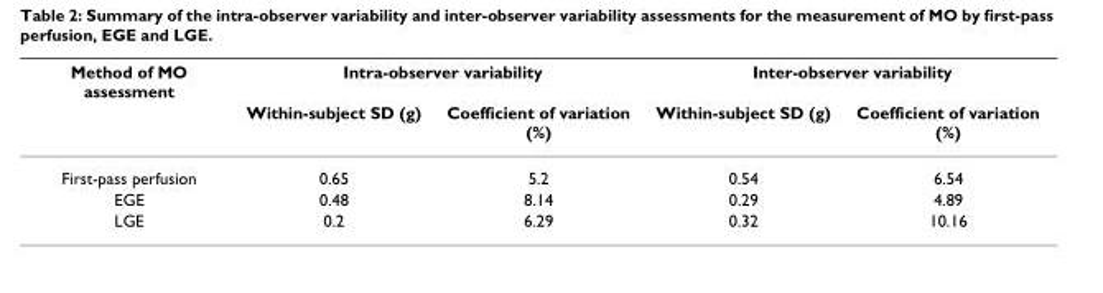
<table><thead><tr><td rowspan="2">Method of MO assessment</td><td colspan="2">Intra-observer variability</td><td colspan="2">Inter-observer variability</td></tr><tr><td>Within-subject SD (g)</td><td>Coefficient of variation (%)</td><td>Within-subject SD (g)</td><td>Coefficient of variation (%)</td></tr></thead><tbody><tr><td>First-pass perfusion</td><td>0.65</td><td>5.2</td><td>0.54</td><td>6.54</td></tr><tr><td>EGE</td><td>0.48</td><td>8.14</td><td>0.29</td><td>4.89</td></tr><tr><td>LGE</td><td>0.2</td><td>6.29</td><td>0.32</td><td>10.16</td></tr></tbody></table>